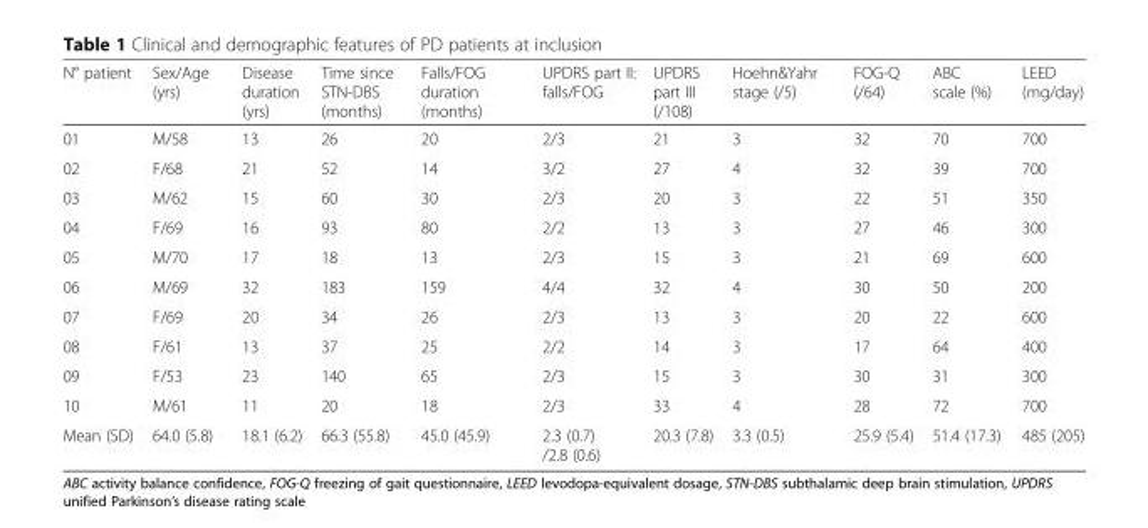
<table><thead><tr><td>N° patient</td><td>Sex/Age (yrs)</td><td>Disease duration (yrs)</td><td>Time since STN-DBS (months)</td><td>Falls/FOG duration (months)</td><td>UPDRS part II: falls/FOG</td><td>UPDRS part III (/108)</td><td>Hoehn&amp;Yahr stage (/5)</td><td>FOG-Q (/64)</td><td>ABC scale (%)</td><td>LEED (mg/day)</td></tr></thead><tbody><tr><td>01</td><td>M/58</td><td>13</td><td>26</td><td>20</td><td>2/3</td><td>21</td><td>3</td><td>32</td><td>70</td><td>700</td></tr><tr><td>02</td><td>F/68</td><td>21</td><td>52</td><td>14</td><td>3/2</td><td>27</td><td>4</td><td>32</td><td>39</td><td>700</td></tr><tr><td>03</td><td>M/62</td><td>15</td><td>60</td><td>30</td><td>2/3</td><td>20</td><td>3</td><td>22</td><td>51</td><td>350</td></tr><tr><td>04</td><td>F/69</td><td>16</td><td>93</td><td>80</td><td>2/2</td><td>13</td><td>3</td><td>27</td><td>46</td><td>300</td></tr><tr><td>05</td><td>M/70</td><td>17</td><td>18</td><td>13</td><td>2/3</td><td>15</td><td>3</td><td>21</td><td>69</td><td>600</td></tr><tr><td>06</td><td>M/69</td><td>32</td><td>183</td><td>159</td><td>4/4</td><td>32</td><td>4</td><td>30</td><td>50</td><td>200</td></tr><tr><td>07</td><td>F/69</td><td>20</td><td>34</td><td>26</td><td>2/3</td><td>13</td><td>3</td><td>20</td><td>22</td><td>600</td></tr><tr><td>08</td><td>F/61</td><td>13</td><td>37</td><td>25</td><td>2/2</td><td>14</td><td>3</td><td>17</td><td>64</td><td>400</td></tr><tr><td>09</td><td>F/53</td><td>23</td><td>140</td><td>65</td><td>2/3</td><td>15</td><td>3</td><td>30</td><td>31</td><td>300</td></tr><tr><td>10</td><td>M/61</td><td>11</td><td>20</td><td>18</td><td>2/3</td><td>33</td><td>4</td><td>28</td><td>72</td><td>700</td></tr><tr><td>Mean (SD)</td><td>64.0 (5.8)</td><td>18.1 (6.2)</td><td>66.3 (55.8)</td><td>45.0 (45.9)</td><td>2.3 (0.7) /2.8 (0.6)</td><td>20.3 (7.8)</td><td>3.3 (0.5)</td><td>25.9 (5.4)</td><td>51.4 (17.3)</td><td>485 (205)</td></tr></tbody></table>